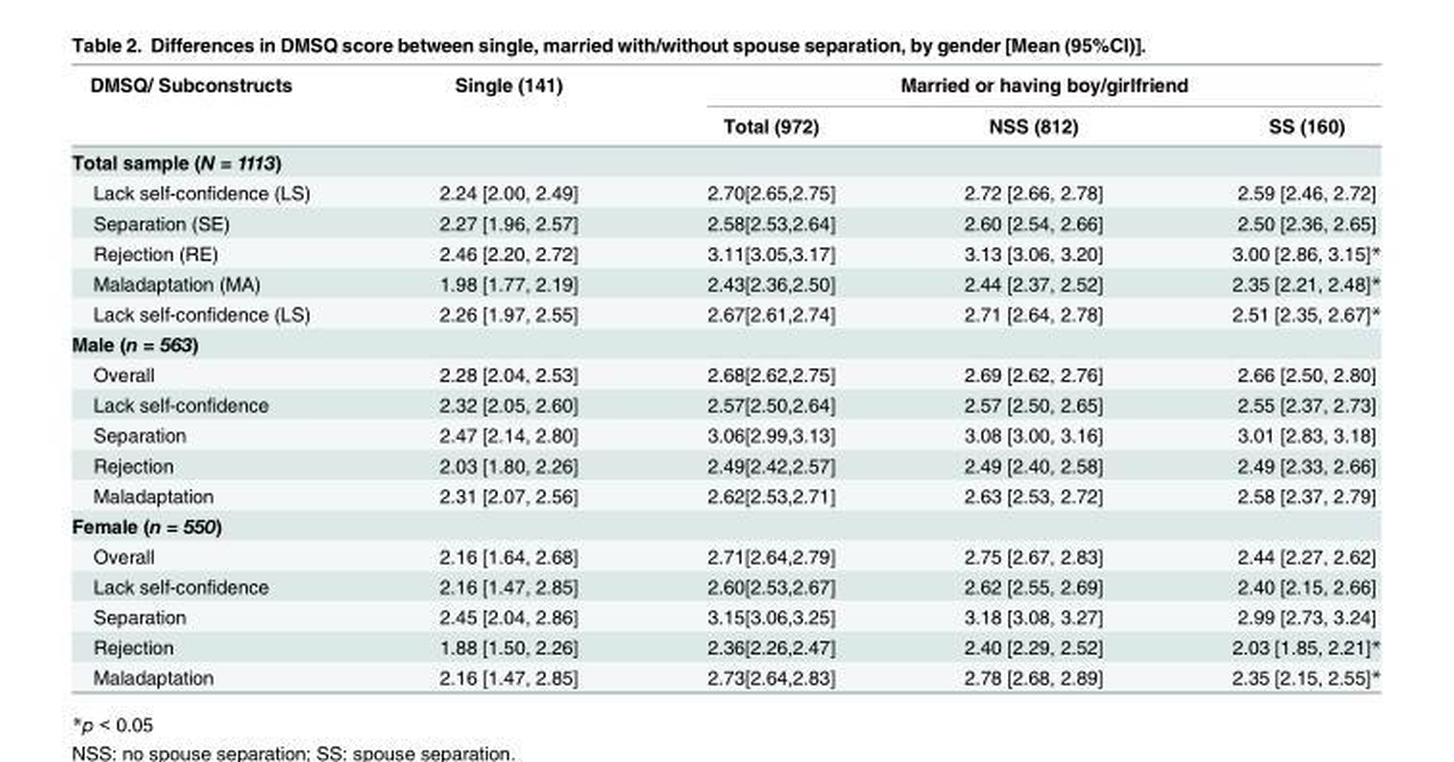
<table><thead><tr><td rowspan="2">DMSQ/ Subconstructs</td><td rowspan="2">Single (141)</td><td colspan="3">Married or having boy/girlfriend</td></tr><tr><td>Total (972)</td><td>NSS (812)</td><td>SS (160)</td></tr></thead><tbody><tr><td colspan="5">Total sample (N = 1113)</td></tr><tr><td>Lack self-confidence (LS)</td><td>2.24 [2.00, 2.49]</td><td>2.70[2.65,2.75]</td><td>2.72 [2.66, 2.78]</td><td>2.59 [2.46, 2.72]</td></tr><tr><td>Separation (SE)</td><td>2.27 [1.96, 2.57]</td><td>2.58[2.53,2.64]</td><td>2.60 [2.54, 2.66]</td><td>2.50 [2.36, 2.65]</td></tr><tr><td>Rejection (RE)</td><td>2.46 [2.20, 2.72]</td><td>3.11[3.05,3.17]</td><td>3.13 [3.06, 3.20]</td><td>3.00 [2.86, 3.15]*</td></tr><tr><td>Maladaptation (MA)</td><td>1.98 [1.77, 2.19]</td><td>2.43[2.36,2.50]</td><td>2.44 [2.37, 2.52]</td><td>2.35 [2.21, 2.48]*</td></tr><tr><td>Lack self-confidence (LS)</td><td>2.26 [1.97, 2.55]</td><td>2.67[2.61,2.74]</td><td>2.71 [2.64, 2.78]</td><td>2.51 [2.35, 2.67]*</td></tr><tr><td colspan="5">Male (n = 563)</td></tr><tr><td>Overall</td><td>2.28 [2.04, 2.53]</td><td>2.68[2.62,2.75]</td><td>2.69 [2.62, 2.76]</td><td>2.66 [2.50, 2.80]</td></tr><tr><td>Lack self-confidence</td><td>2.32 [2.05, 2.60]</td><td>2.57[2.50,2.64]</td><td>2.57 [2.50, 2.65]</td><td>2.55 [2.37, 2.73]</td></tr><tr><td>Separation</td><td>2.47 [2.14, 2.80]</td><td>3.06[2.99,3.13]</td><td>3.08 [3.00, 3.16]</td><td>3.01 [2.83, 3.18]</td></tr><tr><td>Rejection</td><td>2.03 [1.80, 2.26]</td><td>2.49[2.42,2.57]</td><td>2.49 [2.40, 2.58]</td><td>2.49 [2.33, 2.66]</td></tr><tr><td>Maladaptation</td><td>2.31 [2.07, 2.56]</td><td>2.62[2.53,2.71]</td><td>2.63 [2.53, 2.72]</td><td>2.58 [2.37, 2.79]</td></tr><tr><td colspan="5">Female (n = 550)</td></tr><tr><td>Overall</td><td>2.16 [1.64, 2.68]</td><td>2.71[2.64,2.79]</td><td>2.75 [2.67, 2.83]</td><td>2.44 [2.27, 2.62]</td></tr><tr><td>Lack self-confidence</td><td>2.16 [1.47, 2.85]</td><td>2.60[2.53,2.67]</td><td>2.62 [2.55, 2.69]</td><td>2.40 [2.15, 2.66]</td></tr><tr><td>Separation</td><td>2.45 [2.04, 2.86]</td><td>3.15[3.06,3.25]</td><td>3.18 [3.08, 3.27]</td><td>2.99 [2.73, 3.24]</td></tr><tr><td>Rejection</td><td>1.88 [1.50, 2.26]</td><td>2.36[2.26,2.47]</td><td>2.40 [2.29, 2.52]</td><td>2.03 [1.85, 2.21]*</td></tr><tr><td>Maladaptation</td><td>2.16 [1.47, 2.85]</td><td>2.73[2.64,2.83]</td><td>2.78 [2.68, 2.89]</td><td>2.35 [2.15, 2.55]*</td></tr></tbody></table>